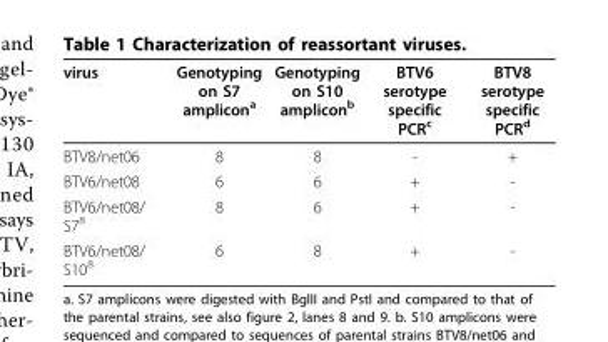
<table><thead><tr><td>virus</td><td>Genotyping on S7 amplicon<sup>a</sup></td><td>Genotyping on S10 amplicon<sup>b</sup></td><td>BTV6 serotype specific PCR<sup>c</sup></td><td>BTV8 serotype specific PCR<sup>d</sup></td></tr></thead><tbody><tr><td>BTV8/net06</td><td>8</td><td>8</td><td>-</td><td>+</td></tr><tr><td>BTV6/net08</td><td>6</td><td>6</td><td>+</td><td>-</td></tr><tr><td>BTV6/net08/ S7<sup>8</sup></td><td>8</td><td>6</td><td>+</td><td>-</td></tr><tr><td>BTV6/net08/ S10<sup>8</sup></td><td>6</td><td>8</td><td>+</td><td>-</td></tr></tbody></table>